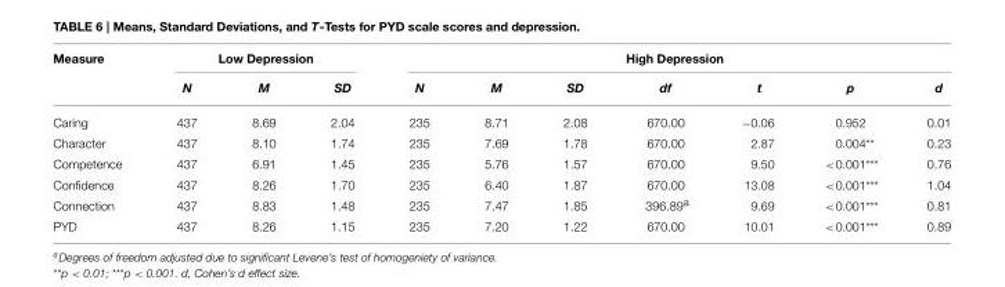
<table><thead><tr><td rowspan="2">Measure</td><td colspan="3">Low Depression</td><td colspan="7">High Depression</td></tr><tr><td>N</td><td>M</td><td>SD</td><td>N</td><td>M</td><td>SD</td><td>df</td><td>t</td><td>p</td><td>d</td></tr></thead><tbody><tr><td>Caring</td><td>437</td><td>8.69</td><td>2.04</td><td>235</td><td>8.71</td><td>2.08</td><td>670.00</td><td>−0.06</td><td>0.952</td><td>0.01</td></tr><tr><td>Character</td><td>437</td><td>8.10</td><td>1.74</td><td>235</td><td>7.69</td><td>1.78</td><td>670.00</td><td>2.87</td><td>0.004**</td><td>0.23</td></tr><tr><td>Competence</td><td>437</td><td>6.91</td><td>1.45</td><td>235</td><td>5.76</td><td>1.57</td><td>670.00</td><td>9.50</td><td>&lt;0.001***</td><td>0.76</td></tr><tr><td>Confidence</td><td>437</td><td>8.26</td><td>1.70</td><td>235</td><td>6.40</td><td>1.87</td><td>670.00</td><td>13.08</td><td>&lt;0.001***</td><td>1.04</td></tr><tr><td>Connection</td><td>437</td><td>8.83</td><td>1.48</td><td>235</td><td>7.47</td><td>1.85</td><td>396.89<sup>a</sup></td><td>9.69</td><td>&lt;0.001***</td><td>0.81</td></tr><tr><td>PYD</td><td>437</td><td>8.26</td><td>1.15</td><td>235</td><td>7.20</td><td>1.22</td><td>670.00</td><td>10.01</td><td>&lt;0.001***</td><td>0.89</td></tr></tbody></table>